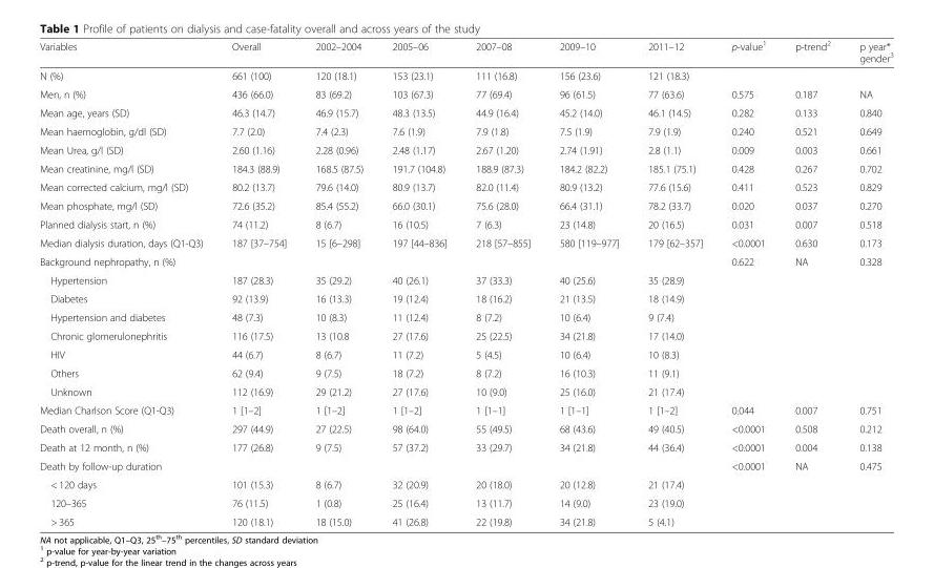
<table><thead><tr><td>Variables</td><td>Overall</td><td>2002–2004</td><td>2005–06</td><td>2007–08</td><td>2009–10</td><td>2011–12</td><td>p-value<sup>1</sup></td><td>p-trend<sup>2</sup></td><td>p year* gender<sup>3</sup></td></tr></thead><tbody><tr><td>N (%)</td><td>661 (100)</td><td>120 (18.1)</td><td>153 (23.1)</td><td>111 (16.8)</td><td>156 (23.6)</td><td>121 (18.3)</td><td></td><td></td><td></td></tr><tr><td>Men, n (%)</td><td>436 (66.0)</td><td>83 (69.2)</td><td>103 (67.3)</td><td>77 (69.4)</td><td>96 (61.5)</td><td>77 (63.6)</td><td>0.575</td><td>0.187</td><td>NA</td></tr><tr><td>Mean age, years (SD)</td><td>46.3 (14.7)</td><td>46.9 (15.7)</td><td>48.3 (13.5)</td><td>44.9 (16.4)</td><td>45.2 (14.0)</td><td>46.1 (14.5)</td><td>0.282</td><td>0.133</td><td>0.840</td></tr><tr><td>Mean haemoglobin, g/dl (SD)</td><td>7.7 (2.0)</td><td>7.4 (2.3)</td><td>7.6 (1.9)</td><td>7.9 (1.8)</td><td>7.5 (1.9)</td><td>7.9 (1.9)</td><td>0.240</td><td>0.521</td><td>0.649</td></tr><tr><td>Mean Urea, g/l (SD)</td><td>2.60 (1.16)</td><td>2.28 (0.96)</td><td>2.48 (1.17)</td><td>2.67 (1.20)</td><td>2.74 (1.91)</td><td>2.8 (1.1)</td><td>0.009</td><td>0.003</td><td>0.661</td></tr><tr><td>Mean creatinine, mg/l (SD)</td><td>184.3 (88.9)</td><td>168.5 (87.5)</td><td>191.7 (104.8)</td><td>188.9 (87.3)</td><td>184.2 (82.2)</td><td>185.1 (75.1)</td><td>0.428</td><td>0.267</td><td>0.702</td></tr><tr><td>Mean corrected calcium, mg/l (SD)</td><td>80.2 (13.7)</td><td>79.6 (14.0)</td><td>80.9 (13.7)</td><td>82.0 (11.4)</td><td>80.9 (13.2)</td><td>77.6 (15.6)</td><td>0.411</td><td>0.523</td><td>0.829</td></tr><tr><td>Mean phosphate, mg/l (SD)</td><td>72.6 (35.2)</td><td>85.4 (55.2)</td><td>66.0 (30.1)</td><td>75.6 (28.0)</td><td>66.4 (31.1)</td><td>78.2 (33.7)</td><td>0.020</td><td>0.037</td><td>0.270</td></tr><tr><td>Planned dialysis start, n (%)</td><td>74 (11.2)</td><td>8 (6.7)</td><td>16 (10.5)</td><td>7 (6.3)</td><td>23 (14.8)</td><td>20 (16.5)</td><td>0.031</td><td>0.007</td><td>0.518</td></tr><tr><td>Median dialysis duration, days (Q1-Q3)</td><td>187 [37–754]</td><td>15 [6–298]</td><td>197 [44–836]</td><td>218 [57–855]</td><td>580 [119–977]</td><td>179 [62–357]</td><td>&lt;0.0001</td><td>0.630</td><td>0.173</td></tr><tr><td>Background nephropathy, n (%)</td><td></td><td></td><td></td><td></td><td></td><td></td><td>0.622</td><td>NA</td><td>0.328</td></tr><tr><td>Hypertension</td><td>187 (28.3)</td><td>35 (29.2)</td><td>40 (26.1)</td><td>37 (33.3)</td><td>40 (25.6)</td><td>35 (28.9)</td><td></td><td></td><td></td></tr><tr><td>Diabetes</td><td>92 (13.9)</td><td>16 (13.3)</td><td>19 (12.4)</td><td>18 (16.2)</td><td>21 (13.5)</td><td>18 (14.9)</td><td></td><td></td><td></td></tr><tr><td>Hypertension and diabetes</td><td>48 (7.3)</td><td>10 (8.3)</td><td>11 (12.4)</td><td>8 (7.2)</td><td>10 (6.4)</td><td>9 (7.4)</td><td></td><td></td><td></td></tr><tr><td>Chronic glomerulonephritis</td><td>116 (17.5)</td><td>13 (10.8</td><td>27 (17.6)</td><td>25 (22.5)</td><td>34 (21.8)</td><td>17 (14.0)</td><td></td><td></td><td></td></tr><tr><td>HIV</td><td>44 (6.7)</td><td>8 (6.7)</td><td>11 (7.2)</td><td>5 (4.5)</td><td>10 (6.4)</td><td>10 (8.3)</td><td></td><td></td><td></td></tr><tr><td>Others</td><td>62 (9.4)</td><td>9 (7.5)</td><td>18 (7.2)</td><td>8 (7.2)</td><td>16 (10.3)</td><td>11 (9.1)</td><td></td><td></td><td></td></tr><tr><td>Unknown</td><td>112 (16.9)</td><td>29 (21.2)</td><td>27 (17.6)</td><td>10 (9.0)</td><td>25 (16.0)</td><td>21 (17.4)</td><td></td><td></td><td></td></tr><tr><td>Median Charlson Score (Q1-Q3)</td><td>1 [1–2]</td><td>1 [1–2]</td><td>1 [1–2]</td><td>1 [1–1]</td><td>1 [1–1]</td><td>1 [1–2]</td><td>0.044</td><td>0.007</td><td>0.751</td></tr><tr><td>Death overall, n (%)</td><td>297 (44.9)</td><td>27 (22.5)</td><td>98 (64.0)</td><td>55 (49.5)</td><td>68 (43.6)</td><td>49 (40.5)</td><td>&lt;0.0001</td><td>0.508</td><td>0.212</td></tr><tr><td>Death at 12 month, n (%)</td><td>177 (26.8)</td><td>9 (7.5)</td><td>57 (37.2)</td><td>33 (29.7)</td><td>34 (21.8)</td><td>44 (36.4)</td><td>&lt;0.0001</td><td>0.004</td><td>0.138</td></tr><tr><td>Death by follow-up duration</td><td></td><td></td><td></td><td></td><td></td><td></td><td>&lt;0.0001</td><td>NA</td><td>0.475</td></tr><tr><td>&lt; 120 days</td><td>101 (15.3)</td><td>8 (6.7)</td><td>32 (20.9)</td><td>20 (18.0)</td><td>20 (12.8)</td><td>21 (17.4)</td><td></td><td></td><td></td></tr><tr><td>120–365</td><td>76 (11.5)</td><td>1 (0.8)</td><td>25 (16.4)</td><td>13 (11.7)</td><td>14 (9.0)</td><td>23 (19.0)</td><td></td><td></td><td></td></tr><tr><td>&gt; 365</td><td>120 (18.1)</td><td>18 (15.0)</td><td>41 (26.8)</td><td>22 (19.8)</td><td>34 (21.8)</td><td>5 (4.1)</td><td></td><td></td><td></td></tr></tbody></table>